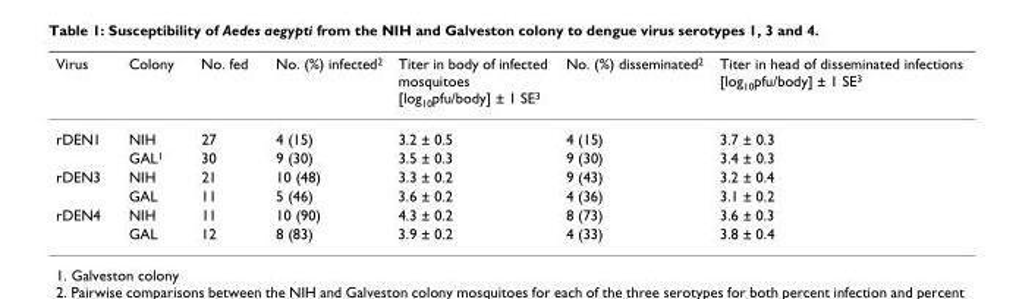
<table><thead><tr><td>Virus</td><td>Colony</td><td>No. fed</td><td>No. (%) infected<sup>2</sup></td><td>Titer in body of infected mosquitoes [log<sub>10</sub>pfu/body] ± 1 SE<sup>3</sup></td><td>No. (%) disseminated<sup>2</sup></td><td>Titer in head of disseminated infections [log<sub>10</sub>pfu/body] ± 1 SE<sup>3</sup></td></tr></thead><tbody><tr><td rowspan="2">rDEN1</td><td>NIH</td><td>27</td><td>4 (15)</td><td>3.2 ± 0.5</td><td>4 (15)</td><td>3.7 ± 0.3</td></tr><tr><td>GAL<sup>1</sup></td><td>30</td><td>9 (30)</td><td>3.5 ± 0.3</td><td>9 (30)</td><td>3.4 ± 0.3</td></tr><tr><td rowspan="2">rDEN3</td><td>NIH</td><td>21</td><td>10 (48)</td><td>3.3 ± 0.2</td><td>9 (43)</td><td>3.2 ± 0.4</td></tr><tr><td>GAL</td><td>11</td><td>5 (46)</td><td>3.6 ± 0.2</td><td>4 (36)</td><td>3.1 ± 0.2</td></tr><tr><td rowspan="2">rDEN4</td><td>NIH</td><td>11</td><td>10 (90)</td><td>4.3 ± 0.2</td><td>8 (73)</td><td>3.6 ± 0.3</td></tr><tr><td>GAL</td><td>12</td><td>8 (83)</td><td>3.9 ± 0.2</td><td>4 (33)</td><td>3.8 ± 0.4</td></tr></tbody></table>